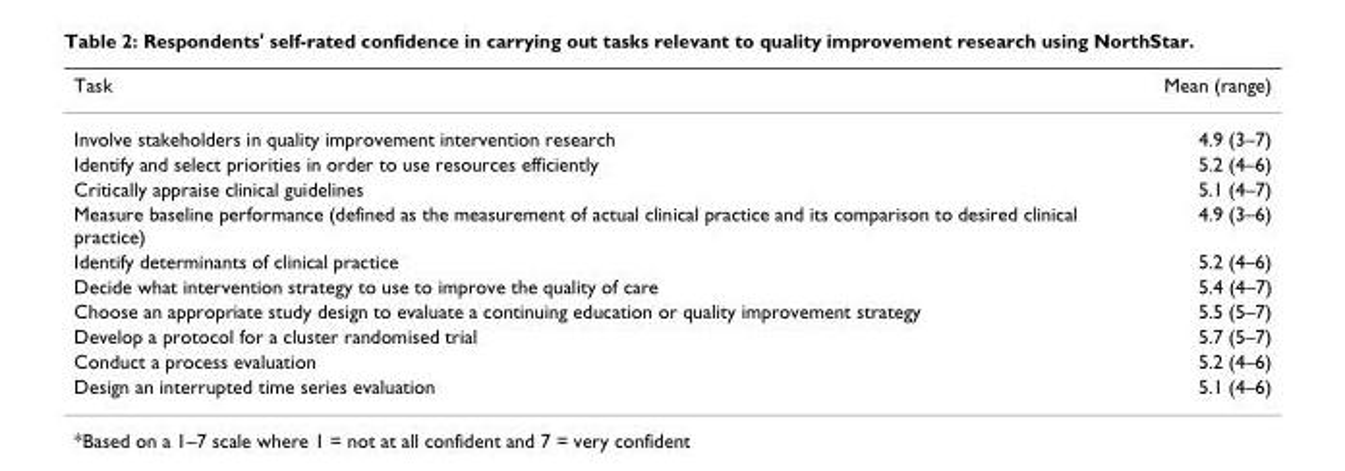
<table><thead><tr><td>Task</td><td>Mean (range)</td></tr></thead><tbody><tr><td>Involve stakeholders in quality improvement intervention research</td><td>4.9 (3–7)</td></tr><tr><td>Identify and select priorities in order to use resources efficiently</td><td>5.2 (4–6)</td></tr><tr><td>Critically appraise clinical guidelines</td><td>5.1 (4–7)</td></tr><tr><td>Measure baseline performance (defined as the measurement of actual clinical practice and its comparison to desired clinical practice)</td><td>4.9 (3–6)</td></tr><tr><td>Identify determinants of clinical practice</td><td>5.2 (4–6)</td></tr><tr><td>Decide what intervention strategy to use to improve the quality of care</td><td>5.4 (4–7)</td></tr><tr><td>Choose an appropriate study design to evaluate a continuing education or quality improvement strategy</td><td>5.5 (5–7)</td></tr><tr><td>Develop a protocol for a cluster randomised trial</td><td>5.7 (5–7)</td></tr><tr><td>Conduct a process evaluation</td><td>5.2 (4–6)</td></tr><tr><td>Design an interrupted time series evaluation</td><td>5.1 (4–6)</td></tr></tbody></table>